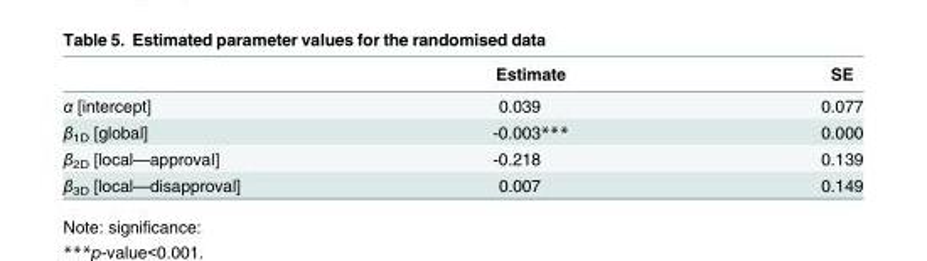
<table><thead><tr><td></td><td>Estimate</td><td>SE</td></tr></thead><tbody><tr><td>α [intercept]</td><td>0.039</td><td>0.077</td></tr><tr><td>β<sub>1D</sub> [global]</td><td>-0.003***</td><td>0.000</td></tr><tr><td>β<sub>2D</sub> [local—approval]</td><td>-0.218</td><td>0.139</td></tr><tr><td>β<sub>3D</sub> [local—disapproval]</td><td>0.007</td><td>0.149</td></tr></tbody></table>